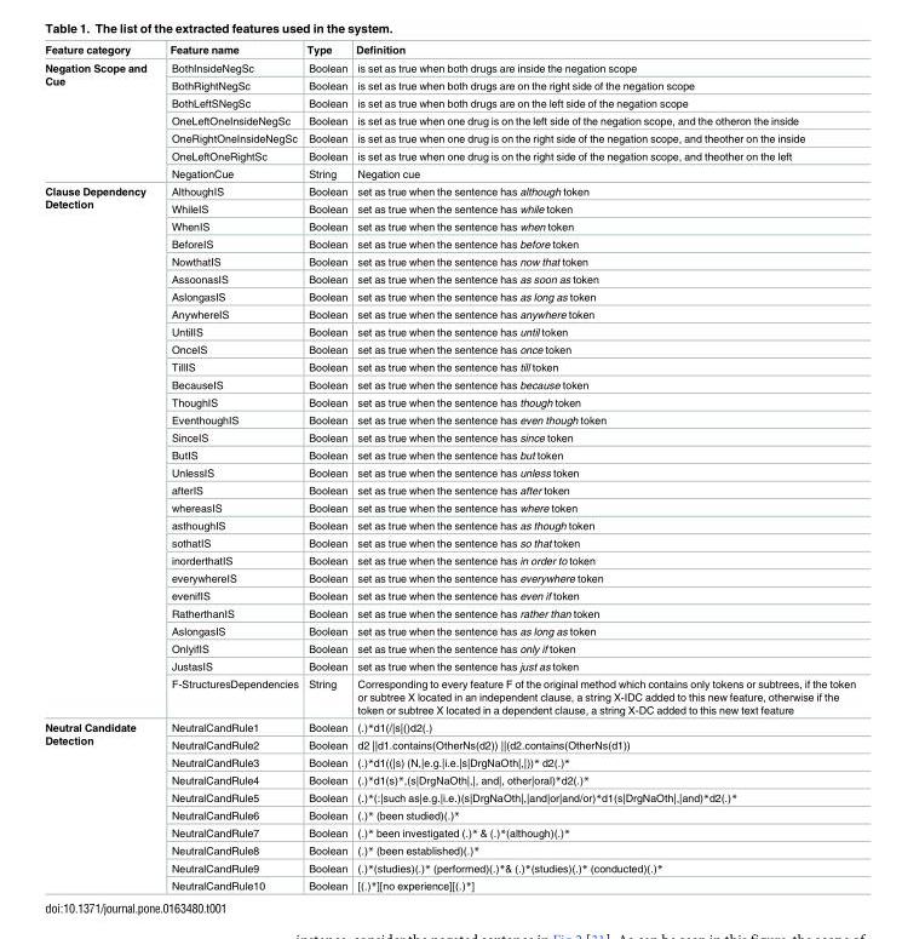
<table><thead><tr><td>Feature category</td><td>Feature name</td><td>Type</td><td>Definition</td></tr></thead><tbody><tr><td rowspan="7">Negation Scope and Cue</td><td>BothInsideNegSc</td><td>Boolean</td><td>is set as true when both drugs are inside the negation scope</td></tr><tr><td>BothRightNegSc</td><td>Boolean</td><td>is set as true when both drugs are on the right side of the negation scope</td></tr><tr><td>BothLeftSNegSc</td><td>Boolean</td><td>is set as true when both drugs are on the left side of the negation scope</td></tr><tr><td>OneLeftOneInsideNegSc</td><td>Boolean</td><td>is set as true when one drug is on the left side of the negation scope, and the otheron the inside</td></tr><tr><td>OneRightOneInsideNegSc</td><td>Boolean</td><td>is set as true when one drug is on the right side of the negation scope, and theother on the inside</td></tr><tr><td>OneLeftOneRightSc</td><td>Boolean</td><td>is set as true when one drug is on the right side of the negation scope, and theother on the left</td></tr><tr><td>NegationCue</td><td>String</td><td>Negation cue</td></tr><tr><td rowspan="29">Clause Dependency Detection</td><td>AlthoughIS</td><td>Boolean</td><td>set as true when the sentence has although token</td></tr><tr><td>WhileIS</td><td>Boolean</td><td>set as true when the sentence has while token</td></tr><tr><td>WhenIS</td><td>Boolean</td><td>set as true when the sentence has when token</td></tr><tr><td>BeforeIS</td><td>Boolean</td><td>set as true when the sentence has before token</td></tr><tr><td>NowthatIS</td><td>Boolean</td><td>set as true when the sentence has now that token</td></tr><tr><td>AssoonasIS</td><td>Boolean</td><td>set as true when the sentence has as soon as token</td></tr><tr><td>AslongasIS</td><td>Boolean</td><td>set as true when the sentence has as long as token</td></tr><tr><td>AnywhereIS</td><td>Boolean</td><td>set as true when the sentence has anywhere token</td></tr><tr><td>UntilIS</td><td>Boolean</td><td>set as true when the sentence has until token</td></tr><tr><td>OnceIS</td><td>Boolean</td><td>set as true when the sentence has once token</td></tr><tr><td>TillIS</td><td>Boolean</td><td>set as true when the sentence has till token</td></tr><tr><td>BecauseIS</td><td>Boolean</td><td>set as true when the sentence has because token</td></tr><tr><td>ThoughIS</td><td>Boolean</td><td>set as true when the sentence has though token</td></tr><tr><td>EventhoughIS</td><td>Boolean</td><td>set as true when the sentence has even though token</td></tr><tr><td>SinceIS</td><td>Boolean</td><td>set as true when the sentence has since token</td></tr><tr><td>ButIS</td><td>Boolean</td><td>set as true when the sentence has but token</td></tr><tr><td>UnlessIS</td><td>Boolean</td><td>set as true when the sentence has unless token</td></tr><tr><td>afterIS</td><td>Boolean</td><td>set as true when the sentence has after token</td></tr><tr><td>whereasIS</td><td>Boolean</td><td>set as true when the sentence has where token</td></tr><tr><td>asthoughIS</td><td>Boolean</td><td>set as true when the sentence has as though token</td></tr><tr><td>sothatIS</td><td>Boolean</td><td>set as true when the sentence has so that token</td></tr><tr><td>inorderthatIS</td><td>Boolean</td><td>set as true when the sentence has in order to token</td></tr><tr><td>everywhereIS</td><td>Boolean</td><td>set as true when the sentence has everywhere token</td></tr><tr><td>evenifIS</td><td>Boolean</td><td>set as true when the sentence has even if token</td></tr><tr><td>RatherthanIS</td><td>Boolean</td><td>set as true when the sentence has rather than token</td></tr><tr><td>AslongasIS</td><td>Boolean</td><td>set as true when the sentence has as long as token</td></tr><tr><td>OnlyifIS</td><td>Boolean</td><td>set as true when the sentence has only if token</td></tr><tr><td>JustasIS</td><td>Boolean</td><td>set as true when the sentence has just as token</td></tr><tr><td>F-StructuresDependencies</td><td>String</td><td>Corresponding to every feature F of the original method which contains only tokens or subtrees, if the token or subtree X located in an independent clause, a string X-IDC added to this new feature, otherwise if the token or subtree X located in a dependent clause, a string X-DC added to this new text feature</td></tr><tr><td rowspan="10">Neutral Candidate Detection</td><td>NeutralCandRule1</td><td>Boolean</td><td>(.)*d1(/|s|()d2(.)</td></tr><tr><td>NeutralCandRule2</td><td>Boolean</td><td>d2 ||d1.contains(OtherNs(d2)) ||(d2.contains(OtherNs(d1))</td></tr><tr><td>NeutralCandRule3</td><td>Boolean</td><td>(.)*d1((|s) (N,|e.g.|i.e.|s|DrgNaOth|,|))* d2(.)*</td></tr><tr><td>NeutralCandRule4</td><td>Boolean</td><td>(.)*d1(s)*,(s|DrgNaOth|,|, and|, other|oral)*d2(.)*</td></tr><tr><td>NeutralCandRule5</td><td>Boolean</td><td>(.)*(:|such as|e.g.|i.e.)(s|DrgNaOth|,|and|or|and/or)*d1(s|DrgNaOth|,|and)*d2(.)*</td></tr><tr><td>NeutralCandRule6</td><td>Boolean</td><td>(.)* (been studied)(.)*</td></tr><tr><td>NeutralCandRule7</td><td>Boolean</td><td>(.)* been investigated (.)* &amp; (.)*(although)(.)*</td></tr><tr><td>NeutralCandRule8</td><td>Boolean</td><td>(.)* (been established)(.)*</td></tr><tr><td>NeutralCandRule9</td><td>Boolean</td><td>(.)*(studies)(.)* (performed)(.)*&amp; (.)*(studies)(.)* (conducted)(.)*</td></tr><tr><td>NeutralCandRule10</td><td>Boolean</td><td>[(.)*][no experience][(.)*]</td></tr></tbody></table>